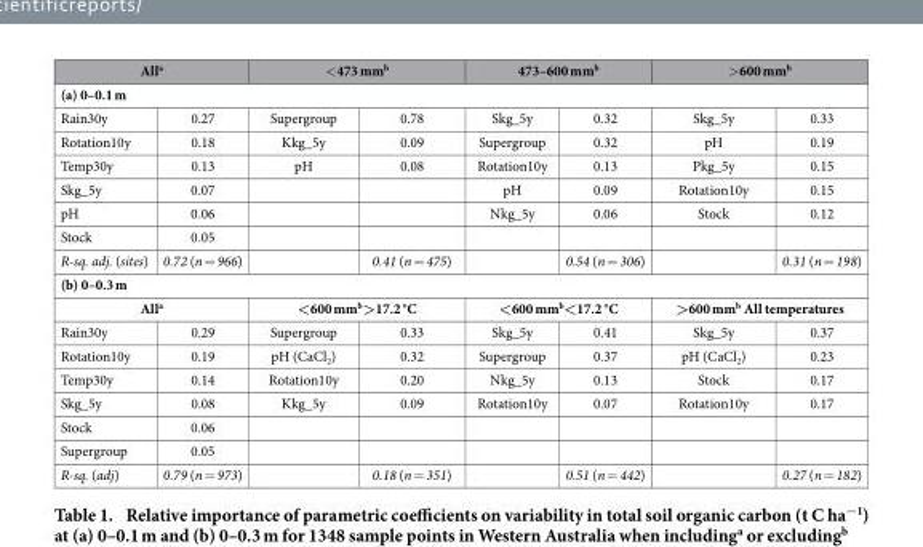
<table><thead><tr><td colspan="2">All<sup>a</sup></td><td colspan="2">&lt; 473 mm<sup>b</sup></td><td colspan="2">473–600 mm<sup>b</sup></td><td colspan="2">&gt; 600 mm<sup>b</sup></td></tr><tr><td colspan="8">(a) 0–0.1 m</td></tr><tr><td>Rain30y</td><td>0.27</td><td>Supergroup</td><td>0.78</td><td>Skg_5y</td><td>0.32</td><td>Skg_5y</td><td>0.33</td></tr></thead><tbody><tr><td>Rotation10y</td><td>0.18</td><td>Kkg_5y</td><td>0.09</td><td>Supergroup</td><td>0.32</td><td>pH</td><td>0.19</td></tr><tr><td>Temp30y</td><td>0.13</td><td>pH</td><td>0.08</td><td>Rotation10y</td><td>0.13</td><td>Pkg_5y</td><td>0.15</td></tr><tr><td>Skg_5y</td><td>0.07</td><td></td><td></td><td>pH</td><td>0.09</td><td>Rotation10y</td><td>0.15</td></tr><tr><td>pH</td><td>0.06</td><td></td><td></td><td>Nkg_5y</td><td>0.06</td><td>Stock</td><td>0.12</td></tr><tr><td>Stock</td><td>0.05</td><td></td><td></td><td></td><td></td><td></td><td></td></tr><tr><td>R-sq. adj. (sites)</td><td>0.72 (n = 966)</td><td></td><td>0.41 (n = 475)</td><td></td><td>0.54 (n = 306)</td><td></td><td>0.31 (n = 198)</td></tr><tr><td colspan="8">(b) 0–0.3 m</td></tr><tr><td colspan="2">All<sup>a</sup></td><td colspan="2">&lt;600 mm<sup>b</sup>&gt; 17.2 °C</td><td colspan="2">&lt;600 mm<sup>b</sup>&lt; 17.2 °C</td><td colspan="2">&gt;600 mm<sup>b</sup> All temperatures</td></tr><tr><td>Rain30y</td><td>0.29</td><td>Supergroup</td><td>0.33</td><td>Skg_5y</td><td>0.41</td><td>Skg_5y</td><td>0.37</td></tr><tr><td>Rotation10y</td><td>0.19</td><td>pH (CaCl<sub>2</sub>)</td><td>0.32</td><td>Supergroup</td><td>0.37</td><td>pH (CaCl<sub>2</sub>)</td><td>0.23</td></tr><tr><td>Temp30y</td><td>0.14</td><td>Rotation10y</td><td>0.20</td><td>Nkg_5y</td><td>0.13</td><td>Stock</td><td>0.17</td></tr><tr><td>Skg_5y</td><td>0.08</td><td>Kkg_5y</td><td>0.09</td><td>Rotation10y</td><td>0.07</td><td>Rotation10y</td><td>0.17</td></tr><tr><td>Stock</td><td>0.06</td><td></td><td></td><td></td><td></td><td></td><td></td></tr><tr><td>Supergroup</td><td>0.05</td><td></td><td></td><td></td><td></td><td></td><td></td></tr><tr><td>R-sq. (adj)</td><td>0.79 (n = 973)</td><td></td><td>0.18 (n = 351)</td><td></td><td>0.51 (n = 442)</td><td></td><td>0.27 (n = 182)</td></tr></tbody></table>